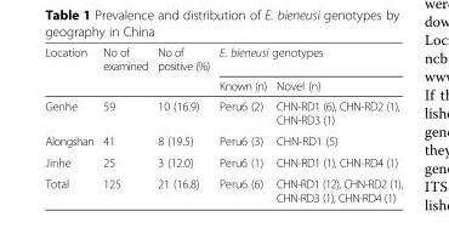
<table><thead><tr><td rowspan="2">Location</td><td rowspan="2">No of examined</td><td rowspan="2">No of positive (%)</td><td colspan="2">E. bieneusi genotypes</td></tr><tr><td>Known (n)</td><td>Novel (n)</td></tr></thead><tbody><tr><td>Genhe</td><td>59</td><td>10 (16.9)</td><td>Peru6 (2)</td><td>CHN-RD1 (6), CHN-RD2 (1), CHN-RD3 (1)</td></tr><tr><td>Alongshan</td><td>41</td><td>8 (19.5)</td><td>Peru6 (3)</td><td>CHN-RD1 (5)</td></tr><tr><td>Jinhe</td><td>25</td><td>3 (12.0)</td><td>Peru6 (1)</td><td>CHN-RD1 (1), CHN-RD4 (1)</td></tr><tr><td>Total</td><td>125</td><td>21 (16.8)</td><td>Peru6 (6)</td><td>CHN-RD1 (12), CHN-RD2 (1), CHN-RD3 (1), CHN-RD4 (1)</td></tr></tbody></table>